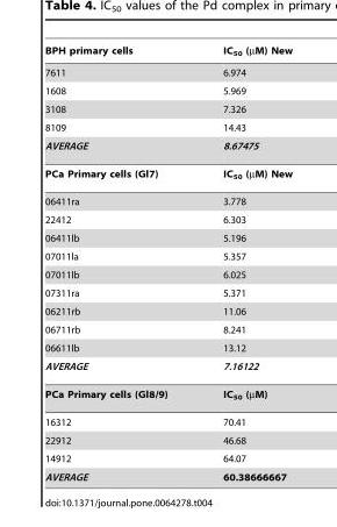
<table><thead><tr><td>BPH primary cells</td><td>IC<sub>50</sub> (µM) New</td></tr></thead><tbody><tr><td>7611</td><td>6.974</td></tr><tr><td>1608</td><td>5.969</td></tr><tr><td>3108</td><td>7.326</td></tr><tr><td>8109</td><td>14.43</td></tr><tr><td>AVERAGE</td><td>8.67475</td></tr><tr><td>PCa Primary cells (Gl7)</td><td>IC<sub>50</sub> (µM) New</td></tr><tr><td>06411ra</td><td>3.778</td></tr><tr><td>22412</td><td>6.303</td></tr><tr><td>06411lb</td><td>5.196</td></tr><tr><td>07011la</td><td>5.357</td></tr><tr><td>07011lb</td><td>6.025</td></tr><tr><td>07311ra</td><td>5.371</td></tr><tr><td>06211rb</td><td>11.06</td></tr><tr><td>06711rb</td><td>8.241</td></tr><tr><td>06611lb</td><td>13.12</td></tr><tr><td>AVERAGE</td><td>7.16122</td></tr><tr><td>PCa Primary cells (Gl8/9)</td><td>IC<sub>50</sub> (µM)</td></tr><tr><td>16312</td><td>70.41</td></tr><tr><td>22912</td><td>46.68</td></tr><tr><td>14912</td><td>64.07</td></tr><tr><td>AVERAGE</td><td>60.38666667</td></tr></tbody></table>